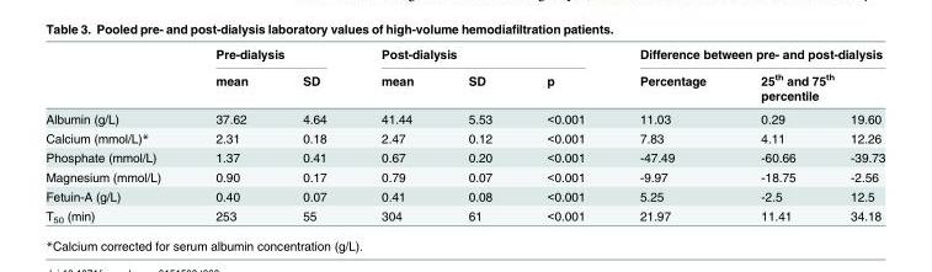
<table><thead><tr><td rowspan="3">Albumin (g/L)</td><td colspan="2">Pre-dialysis</td><td colspan="3">Post-dialysis</td><td colspan="3">Difference between pre- and post-dialysis</td></tr><tr><td rowspan="2">mean 37.62</td><td rowspan="2">SD 4.64</td><td rowspan="2">mean 41.44</td><td rowspan="2">SD 5.53</td><td rowspan="2">p &lt;0.001</td><td rowspan="2">Percentage 11.03</td><td colspan="2">25<sup>th</sup> and 75<sup>th</sup> percentile</td></tr><tr><td>0.29</td><td>19.60</td></tr></thead><tbody><tr><td>Calcium (mmol/L)*</td><td>2.31</td><td>0.18</td><td>2.47</td><td>0.12</td><td>&lt;0.001</td><td>7.83</td><td>4.11</td><td>12.26</td></tr><tr><td>Phosphate (mmol/L)</td><td>1.37</td><td>0.41</td><td>0.67</td><td>0.20</td><td>&lt;0.001</td><td>-47.49</td><td>-60.66</td><td>-39.73</td></tr><tr><td>Magnesium (mmol/L)</td><td>0.90</td><td>0.17</td><td>0.79</td><td>0.07</td><td>&lt;0.001</td><td>-9.97</td><td>-18.75</td><td>-2.56</td></tr><tr><td>Fetuin-A (g/L)</td><td>0.40</td><td>0.07</td><td>0.41</td><td>0.08</td><td>&lt;0.001</td><td>5.25</td><td>-2.5</td><td>12.5</td></tr><tr><td>T<sub>50</sub> (min)</td><td>253</td><td>55</td><td>304</td><td>61</td><td>&lt;0.001</td><td>21.97</td><td>11.41</td><td>34.18</td></tr></tbody></table>